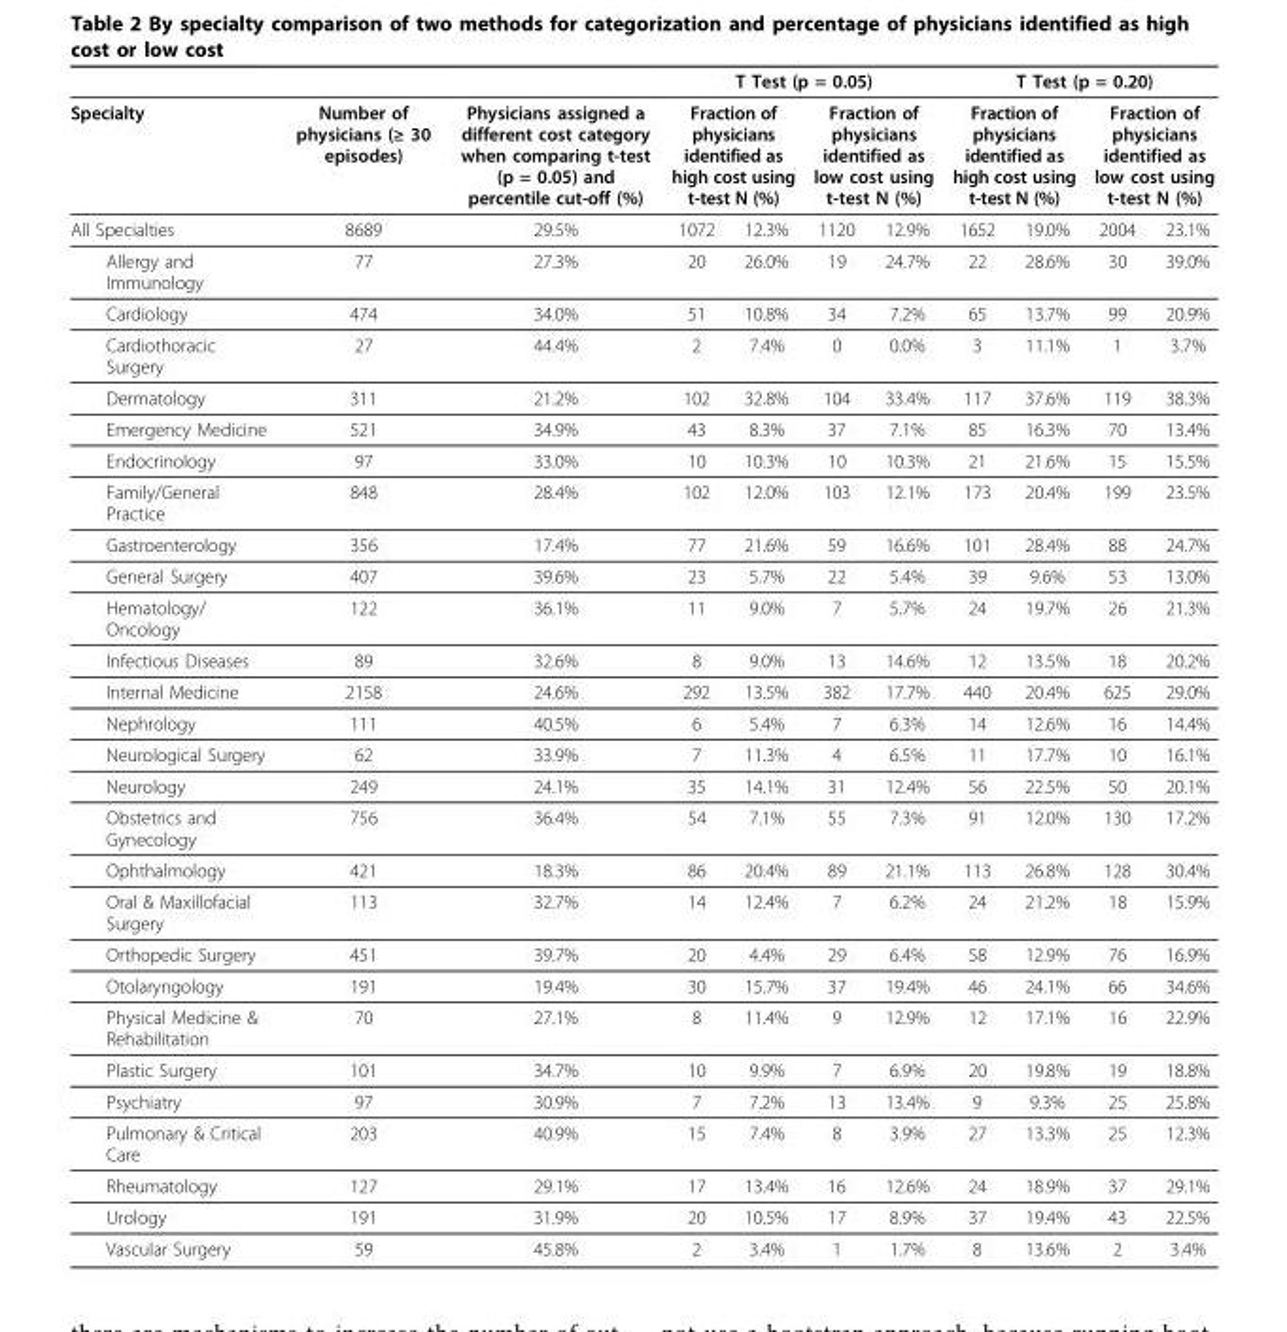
<table><thead><tr><td rowspan="3">Specialty All Specialties</td><td rowspan="3">Number of physicians (≥ 30 episodes) 8689</td><td rowspan="3">Physicians assigned a different cost category when comparing t-test (p = 0.05) and percentile cut-off (%) 29.5%</td><td colspan="4">T Test (p = 0.05)</td><td colspan="4">T Test (p = 0.20)</td></tr><tr><td colspan="2">Fraction of physicians identified as high cost using t-test N (%)</td><td colspan="2">Fraction of physicians identified as low cost using t-test N (%)</td><td colspan="2">Fraction of physicians identified as high cost using t-test N (%)</td><td colspan="2">Fraction of physicians identified as low cost using t-test N (%)</td></tr><tr><td>1072</td><td>12.3%</td><td>1120</td><td>12.9%</td><td>1652</td><td>19.0%</td><td>2004</td><td>23.1%</td></tr></thead><tbody><tr><td>Allergy and Immunology</td><td>77</td><td>27.3%</td><td>20</td><td>26.0%</td><td>19</td><td>24.7%</td><td>22</td><td>28.6%</td><td>30</td><td>39.0%</td></tr><tr><td>Cardiology</td><td>474</td><td>34.0%</td><td>51</td><td>10.8%</td><td>34</td><td>7.2%</td><td>65</td><td>13.7%</td><td>99</td><td>20.9%</td></tr><tr><td>Cardiothoracic Surgery</td><td>27</td><td>44.4%</td><td>2</td><td>7.4%</td><td>0</td><td>0.0%</td><td>3</td><td>11.1%</td><td>1</td><td>3.7%</td></tr><tr><td>Dermatology</td><td>311</td><td>21.2%</td><td>102</td><td>32.8%</td><td>104</td><td>33.4%</td><td>117</td><td>37.6%</td><td>119</td><td>38.3%</td></tr><tr><td>Emergency Medicine</td><td>521</td><td>34.9%</td><td>43</td><td>8.3%</td><td>37</td><td>7.1%</td><td>85</td><td>16.3%</td><td>70</td><td>13.4%</td></tr><tr><td>Endocrinology</td><td>97</td><td>33.0%</td><td>10</td><td>10.3%</td><td>10</td><td>10.3%</td><td>21</td><td>21.6%</td><td>15</td><td>15.5%</td></tr><tr><td>Family/General Practice</td><td>848</td><td>28.4%</td><td>102</td><td>12.0%</td><td>103</td><td>12.1%</td><td>173</td><td>20.4%</td><td>199</td><td>23.5%</td></tr><tr><td>Gastroenterology</td><td>356</td><td>17.4%</td><td>77</td><td>21.6%</td><td>59</td><td>16.6%</td><td>101</td><td>28.4%</td><td>88</td><td>24.7%</td></tr><tr><td>General Surgery</td><td>407</td><td>39.6%</td><td>23</td><td>5.7%</td><td>22</td><td>5.4%</td><td>39</td><td>9.6%</td><td>53</td><td>13.0%</td></tr><tr><td>Hematology/ Oncology</td><td>122</td><td>36.1%</td><td>11</td><td>9.0%</td><td>7</td><td>5.7%</td><td>24</td><td>19.7%</td><td>26</td><td>21.3%</td></tr><tr><td>Infectious Diseases</td><td>89</td><td>32.6%</td><td>8</td><td>9.0%</td><td>13</td><td>14.6%</td><td>12</td><td>13.5%</td><td>18</td><td>20.2%</td></tr><tr><td>Internal Medicine</td><td>2158</td><td>24.6%</td><td>292</td><td>13.5%</td><td>382</td><td>17.7%</td><td>440</td><td>20.4%</td><td>625</td><td>29.0%</td></tr><tr><td>Nephrology</td><td>111</td><td>40.5%</td><td>6</td><td>5.4%</td><td>7</td><td>6.3%</td><td>14</td><td>12.6%</td><td>16</td><td>14.4%</td></tr><tr><td>Neurological Surgery</td><td>62</td><td>33.9%</td><td>7</td><td>11.3%</td><td>4</td><td>6.5%</td><td>11</td><td>17.7%</td><td>10</td><td>16.1%</td></tr><tr><td>Neurology</td><td>249</td><td>24.1%</td><td>35</td><td>14.1%</td><td>31</td><td>12.4%</td><td>56</td><td>22.5%</td><td>50</td><td>20.1%</td></tr><tr><td>Obstetrics and Gynecology</td><td>756</td><td>36.4%</td><td>54</td><td>7.1%</td><td>55</td><td>7.3%</td><td>91</td><td>12.0%</td><td>130</td><td>17.2%</td></tr><tr><td>Ophthalmology</td><td>421</td><td>18.3%</td><td>86</td><td>20.4%</td><td>89</td><td>21.1%</td><td>113</td><td>26.8%</td><td>128</td><td>30.4%</td></tr><tr><td>Oral &amp; Maxillofacial Surgery</td><td>113</td><td>32.7%</td><td>14</td><td>12.4%</td><td>7</td><td>6.2%</td><td>24</td><td>21.2%</td><td>18</td><td>15.9%</td></tr><tr><td>Orthopedic Surgery</td><td>451</td><td>39.7%</td><td>20</td><td>4.4%</td><td>29</td><td>6.4%</td><td>58</td><td>12.9%</td><td>76</td><td>16.9%</td></tr><tr><td>Otolaryngology</td><td>191</td><td>19.4%</td><td>30</td><td>15.7%</td><td>37</td><td>19.4%</td><td>46</td><td>24.1%</td><td>66</td><td>34.6%</td></tr><tr><td>Physical Medicine &amp; Rehabilitation</td><td>70</td><td>27.1%</td><td>8</td><td>11.4%</td><td>9</td><td>12.9%</td><td>12</td><td>17.1%</td><td>16</td><td>22.9%</td></tr><tr><td>Plastic Surgery</td><td>101</td><td>34.7%</td><td>10</td><td>9.9%</td><td>7</td><td>6.9%</td><td>20</td><td>19.8%</td><td>19</td><td>18.8%</td></tr><tr><td>Psychiatry</td><td>97</td><td>30.9%</td><td>7</td><td>7.2%</td><td>13</td><td>13.4%</td><td>9</td><td>9.3%</td><td>25</td><td>25.8%</td></tr><tr><td>Pulmonary &amp; Critical Care</td><td>203</td><td>40.9%</td><td>15</td><td>7.4%</td><td>8</td><td>3.9%</td><td>27</td><td>13.3%</td><td>25</td><td>12.3%</td></tr><tr><td>Rheumatology</td><td>127</td><td>29.1%</td><td>17</td><td>13.4%</td><td>16</td><td>12.6%</td><td>24</td><td>18.9%</td><td>37</td><td>29.1%</td></tr><tr><td>Urology</td><td>191</td><td>31.9%</td><td>20</td><td>10.5%</td><td>17</td><td>8.9%</td><td>37</td><td>19.4%</td><td>43</td><td>22.5%</td></tr><tr><td>Vascular Surgery</td><td>59</td><td>45.8%</td><td>2</td><td>3.4%</td><td>1</td><td>1.7%</td><td>8</td><td>13.6%</td><td>2</td><td>3.4%</td></tr></tbody></table>